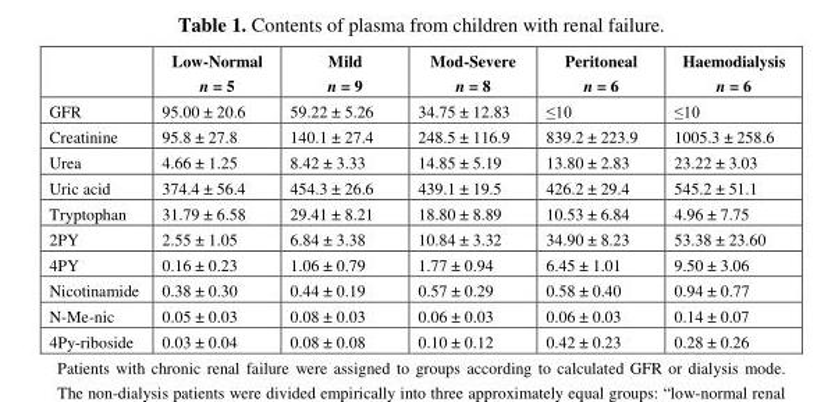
<table><thead><tr><td></td><td>Low-Normal n = 5</td><td>Mild n = 9</td><td>Mod-Severe n = 8</td><td>Peritoneal n = 6</td><td>Haemodialysis n = 6</td></tr></thead><tbody><tr><td>GFR</td><td>95.00 ± 20.6</td><td>59.22 ± 5.26</td><td>34.75 ± 12.83</td><td>≤10</td><td>≤10</td></tr><tr><td>Creatinine</td><td>95.8 ± 27.8</td><td>140.1 ± 27.4</td><td>248.5 ± 116.9</td><td>839.2 ± 223.9</td><td>1005.3 ± 258.6</td></tr><tr><td>Urea</td><td>4.66 ± 1.25</td><td>8.42 ± 3.33</td><td>14.85 ± 5.19</td><td>13.80 ± 2.83</td><td>23.22 ± 3.03</td></tr><tr><td>Uric acid</td><td>374.4 ± 56.4</td><td>454.3 ± 26.6</td><td>439.1 ± 19.5</td><td>426.2 ± 29.4</td><td>545.2 ± 51.1</td></tr><tr><td>Tryptophan</td><td>31.79 ± 6.58</td><td>29.41 ± 8.21</td><td>18.80 ± 8.89</td><td>10.53 ± 6.84</td><td>4.96 ± 7.75</td></tr><tr><td>2PY</td><td>2.55 ± 1.05</td><td>6.84 ± 3.38</td><td>10.84 ± 3.32</td><td>34.90 ± 8.23</td><td>53.38 ± 23.60</td></tr><tr><td>4PY</td><td>0.16 ± 0.23</td><td>1.06 ± 0.79</td><td>1.77 ± 0.94</td><td>6.45 ± 1.01</td><td>9.50 ± 3.06</td></tr><tr><td>Nicotinamide</td><td>0.38 ± 0.30</td><td>0.44 ± 0.19</td><td>0.57 ± 0.29</td><td>0.58 ± 0.40</td><td>0.94 ± 0.77</td></tr><tr><td>N-Me-nic</td><td>0.05 ± 0.03</td><td>0.08 ± 0.03</td><td>0.06 ± 0.03</td><td>0.06 ± 0.03</td><td>0.14 ± 0.07</td></tr><tr><td>4Py-riboside</td><td>0.03 ± 0.04</td><td>0.08 ± 0.08</td><td>0.10 ± 0.12</td><td>0.42 ± 0.23</td><td>0.28 ± 0.26</td></tr></tbody></table>